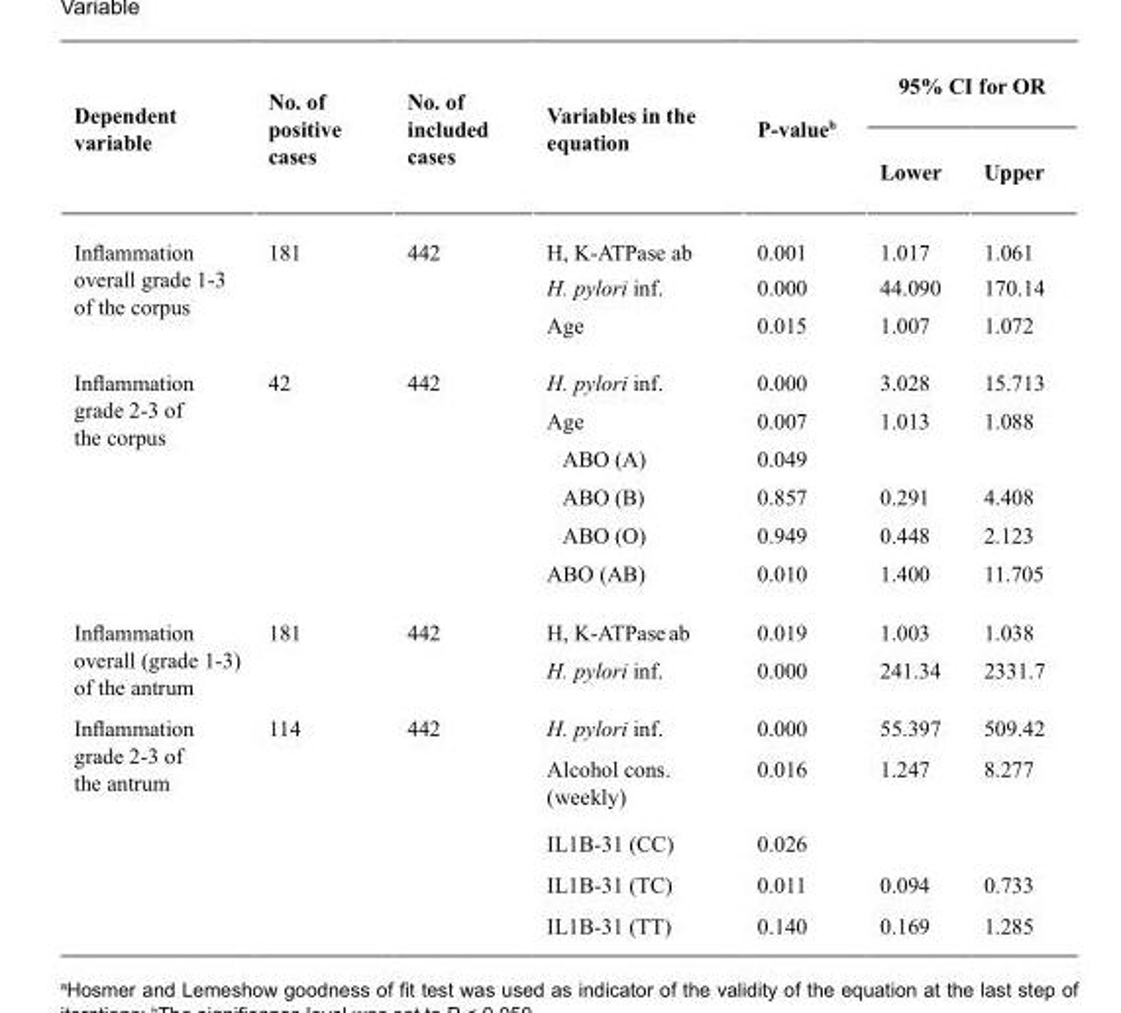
<table><thead><tr><td rowspan="2">Dependent variable</td><td rowspan="2">No. of positive cases</td><td rowspan="2">No. of included cases</td><td rowspan="2">Variables in the equation</td><td rowspan="2">P-value<sup>b</sup></td><td colspan="2">95% CI for OR</td></tr><tr><td>Lower</td><td>Upper</td></tr></thead><tbody><tr><td rowspan="3">Inflammation overall grade 1-3 of the corpus</td><td rowspan="3">181</td><td rowspan="3">442</td><td>H, K-ATPase ab</td><td>0.001</td><td>1.017</td><td>1.061</td></tr><tr><td>H. pylori inf.</td><td>0.000</td><td>44.090</td><td>170.14</td></tr><tr><td>Age</td><td>0.015</td><td>1.007</td><td>1.072</td></tr><tr><td rowspan="6">Inflammation grade 2-3 of the corpus</td><td rowspan="6">42</td><td rowspan="6">442</td><td>H. pylori inf.</td><td>0.000</td><td>3.028</td><td>15.713</td></tr><tr><td>Age</td><td>0.007</td><td>1.013</td><td>1.088</td></tr><tr><td>ABO (A)</td><td>0.049</td><td></td><td></td></tr><tr><td>ABO (B)</td><td>0.857</td><td>0.291</td><td>4.408</td></tr><tr><td>ABO (O)</td><td>0.949</td><td>0.448</td><td>2.123</td></tr><tr><td>ABO (AB)</td><td>0.010</td><td>1.400</td><td>11.705</td></tr><tr><td rowspan="2">Inflammation overall (grade 1-3) of the antrum</td><td rowspan="2">181</td><td rowspan="2">442</td><td>H, K-ATPase ab</td><td>0.019</td><td>1.003</td><td>1.038</td></tr><tr><td>H. pylori inf.</td><td>0.000</td><td>241.34</td><td>2331.7</td></tr><tr><td rowspan="5">Inflammation grade 2-3 of the antrum</td><td rowspan="5">114</td><td rowspan="5">442</td><td>H. pylori inf.</td><td>0.000</td><td>55.397</td><td>509.42</td></tr><tr><td>Alcohol cons. (weekly)</td><td>0.016</td><td>1.247</td><td>8.277</td></tr><tr><td>IL1B-31 (CC)</td><td>0.026</td><td></td><td></td></tr><tr><td>IL1B-31 (TC)</td><td>0.011</td><td>0.094</td><td>0.733</td></tr><tr><td>IL1B-31 (TT)</td><td>0.140</td><td>0.169</td><td>1.285</td></tr></tbody></table>